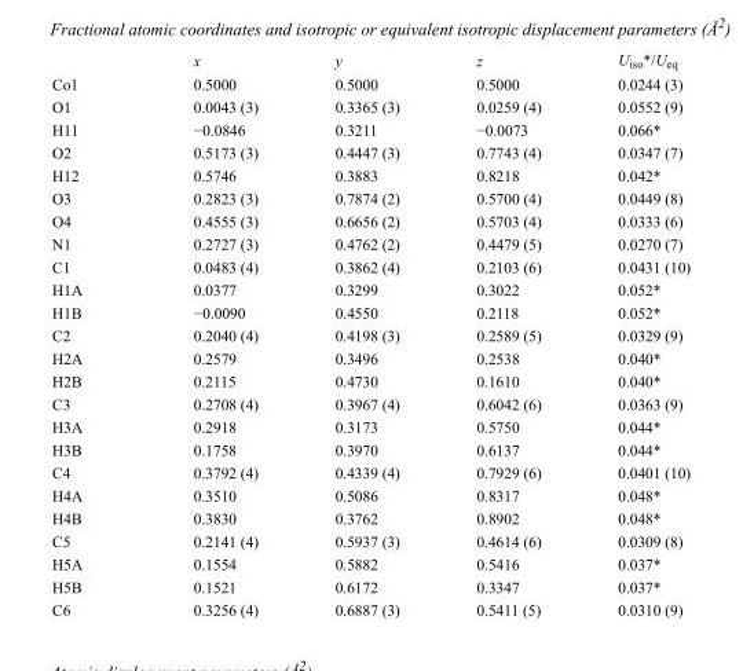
<table><thead><tr><td></td><td>x</td><td>y</td><td>z</td><td>U<sub>iso</sub>*/U<sub>eq</sub></td></tr></thead><tbody><tr><td>Co1</td><td>0.5000</td><td>0.5000</td><td>0.5000</td><td>0.0244 (3)</td></tr><tr><td>O1</td><td>0.0043 (3)</td><td>0.3365 (3)</td><td>0.0259 (4)</td><td>0.0552 (9)</td></tr><tr><td>H11</td><td>−0.0846</td><td>0.3211</td><td>−0.0073</td><td>0.066*</td></tr><tr><td>O2</td><td>0.5173 (3)</td><td>0.4447 (3)</td><td>0.7743 (4)</td><td>0.0347 (7)</td></tr><tr><td>H12</td><td>0.5746</td><td>0.3883</td><td>0.8218</td><td>0.042*</td></tr><tr><td>O3</td><td>0.2823 (3)</td><td>0.7874 (2)</td><td>0.5700 (4)</td><td>0.0449 (8)</td></tr><tr><td>O4</td><td>0.4555 (3)</td><td>0.6656 (2)</td><td>0.5703 (4)</td><td>0.0333 (6)</td></tr><tr><td>N1</td><td>0.2727 (3)</td><td>0.4762 (2)</td><td>0.4479 (5)</td><td>0.0270 (7)</td></tr><tr><td>C1</td><td>0.0483 (4)</td><td>0.3862 (4)</td><td>0.2103 (6)</td><td>0.0431 (10)</td></tr><tr><td>H1A</td><td>0.0377</td><td>0.3299</td><td>0.3022</td><td>0.052*</td></tr><tr><td>H1B</td><td>−0.0090</td><td>0.4550</td><td>0.2118</td><td>0.052*</td></tr><tr><td>C2</td><td>0.2040 (4)</td><td>0.4198 (3)</td><td>0.2589 (5)</td><td>0.0329 (9)</td></tr><tr><td>H2A</td><td>0.2579</td><td>0.3496</td><td>0.2538</td><td>0.040*</td></tr><tr><td>H2B</td><td>0.2115</td><td>0.4730</td><td>0.1610</td><td>0.040*</td></tr><tr><td>C3</td><td>0.2708 (4)</td><td>0.3967 (4)</td><td>0.6042 (6)</td><td>0.0363 (9)</td></tr><tr><td>H3A</td><td>0.2918</td><td>0.3173</td><td>0.5750</td><td>0.044*</td></tr><tr><td>H3B</td><td>0.1758</td><td>0.3970</td><td>0.6137</td><td>0.044*</td></tr><tr><td>C4</td><td>0.3792 (4)</td><td>0.4339 (4)</td><td>0.7929 (6)</td><td>0.0401 (10)</td></tr><tr><td>H4A</td><td>0.3510</td><td>0.5086</td><td>0.8317</td><td>0.048*</td></tr><tr><td>H4B</td><td>0.3830</td><td>0.3762</td><td>0.8902</td><td>0.048*</td></tr><tr><td>C5</td><td>0.2141 (4)</td><td>0.5937 (3)</td><td>0.4614 (6)</td><td>0.0309 (8)</td></tr><tr><td>H5A</td><td>0.1554</td><td>0.5882</td><td>0.5416</td><td>0.037*</td></tr><tr><td>H5B</td><td>0.1521</td><td>0.6172</td><td>0.3347</td><td>0.037*</td></tr><tr><td>C6</td><td>0.3256 (4)</td><td>0.6887 (3)</td><td>0.5411 (5)</td><td>0.0310 (9)</td></tr></tbody></table>